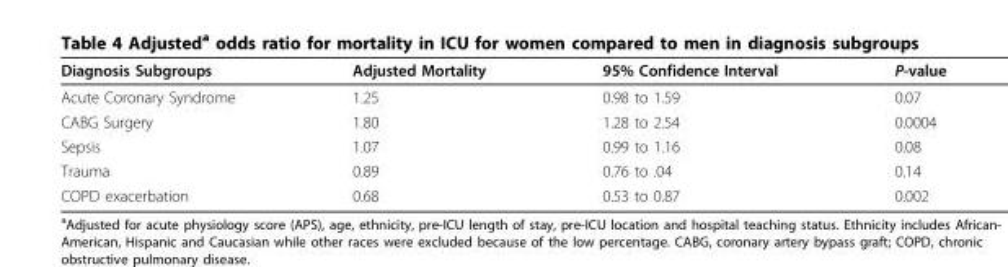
<table><thead><tr><td>Diagnosis Subgroups</td><td>Adjusted Mortality</td><td>95% Confidence Interval</td><td>P-value</td></tr></thead><tbody><tr><td>Acute Coronary Syndrome</td><td>1.25</td><td>0.98 to 1.59</td><td>0.07</td></tr><tr><td>CABG Surgery</td><td>1.80</td><td>1.28 to 2.54</td><td>0.0004</td></tr><tr><td>Sepsis</td><td>1.07</td><td>0.99 to 1.16</td><td>0.08</td></tr><tr><td>Trauma</td><td>0.89</td><td>0.76 to .04</td><td>0.14</td></tr><tr><td>COPD exacerbation</td><td>0.68</td><td>0.53 to 0.87</td><td>0.002</td></tr></tbody></table>